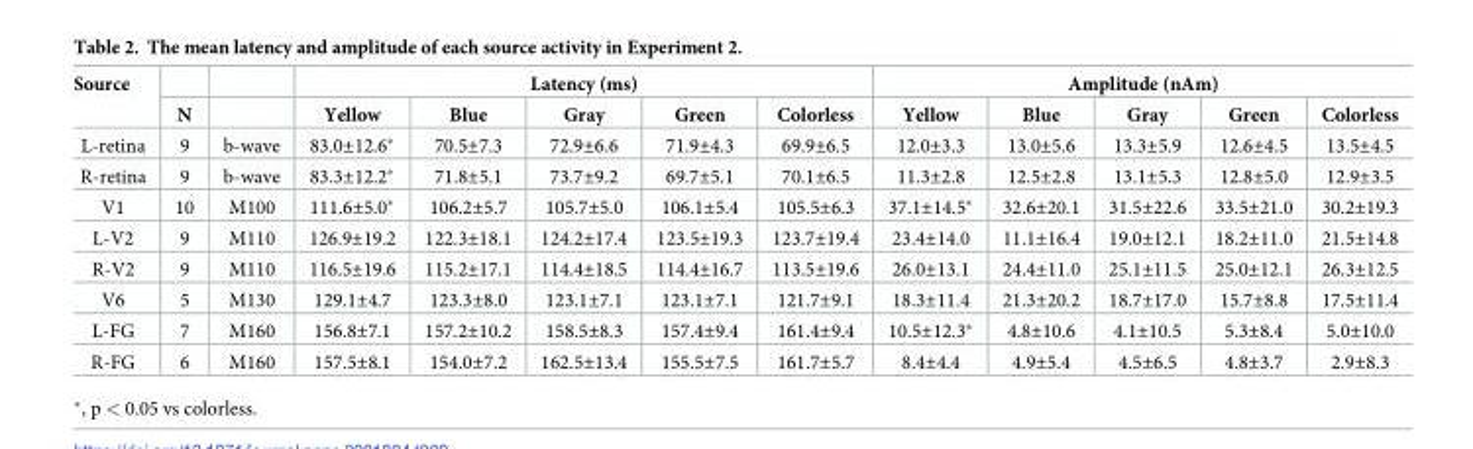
<table><thead><tr><td rowspan="2">Source</td><td rowspan="2">N</td><td rowspan="2"></td><td colspan="5">Latency (ms)</td><td colspan="5">Amplitude (nAm)</td></tr><tr><td>Yellow</td><td>Blue</td><td>Gray</td><td>Green</td><td>Colorless</td><td>Yellow</td><td>Blue</td><td>Gray</td><td>Green</td><td>Colorless</td></tr></thead><tbody><tr><td>L-retina</td><td>9</td><td>b-wave</td><td>83.0±12.6*</td><td>70.5±7.3</td><td>72.9±6.6</td><td>71.9±4.3</td><td>69.9±6.5</td><td>12.0±3.3</td><td>13.0±5.6</td><td>13.3±5.9</td><td>12.6±4.5</td><td>13.5±4.5</td></tr><tr><td>R-retina</td><td>9</td><td>b-wave</td><td>83.3±12.2*</td><td>71.8±5.1</td><td>73.7±9.2</td><td>69.7±5.1</td><td>70.1±6.5</td><td>11.3±2.8</td><td>12.5±2.8</td><td>13.1±5.3</td><td>12.8±5.0</td><td>12.9±3.5</td></tr><tr><td>V1</td><td>10</td><td>M100</td><td>111.6±5.0*</td><td>106.2±5.7</td><td>105.7±5.0</td><td>106.1±5.4</td><td>105.5±6.3</td><td>37.1±14.5*</td><td>32.6±20.1</td><td>31.5±22.6</td><td>33.5±21.0</td><td>30.2±19.3</td></tr><tr><td>L-V2</td><td>9</td><td>M110</td><td>126.9±19.2</td><td>122.3±18.1</td><td>124.2±17.4</td><td>123.5±19.3</td><td>123.7±19.4</td><td>23.4±14.0</td><td>11.1±16.4</td><td>19.0±12.1</td><td>18.2±11.0</td><td>21.5±14.8</td></tr><tr><td>R-V2</td><td>9</td><td>M110</td><td>116.5±19.6</td><td>115.2±17.1</td><td>114.4±18.5</td><td>114.4±16.7</td><td>113.5±19.6</td><td>26.0±13.1</td><td>24.4±11.0</td><td>25.1±11.5</td><td>25.0±12.1</td><td>26.3±12.5</td></tr><tr><td>V6</td><td>5</td><td>M130</td><td>129.1±4.7</td><td>123.3±8.0</td><td>123.1±7.1</td><td>123.1±7.1</td><td>121.7±9.1</td><td>18.3±11.4</td><td>21.3±20.2</td><td>18.7±17.0</td><td>15.7±8.8</td><td>17.5±11.4</td></tr><tr><td>L-FG</td><td>7</td><td>M160</td><td>156.8±7.1</td><td>157.2±10.2</td><td>158.5±8.3</td><td>157.4±9.4</td><td>161.4±9.4</td><td>10.5±12.3*</td><td>4.8±10.6</td><td>4.1±10.5</td><td>5.3±8.4</td><td>5.0±10.0</td></tr><tr><td>R-FG</td><td>6</td><td>M160</td><td>157.5±8.1</td><td>154.0±7.2</td><td>162.5±13.4</td><td>155.5±7.5</td><td>161.7±5.7</td><td>8.4±4.4</td><td>4.9±5.4</td><td>4.5±6.5</td><td>4.8±3.7</td><td>2.9±8.3</td></tr></tbody></table>